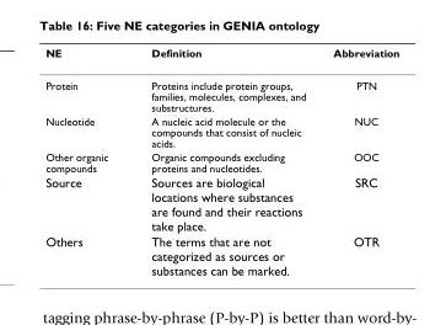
<table><thead><tr><td>NE</td><td>Definition</td><td>Abbreviation</td></tr></thead><tbody><tr><td>Protein</td><td>Proteins include protein groups, families, molecules, complexes, and substructures.</td><td>PTN</td></tr><tr><td>Nucleotide</td><td>A nucleic acid molecule or the compounds that consist of nucleic acids.</td><td>NUC</td></tr><tr><td>Other organic compounds</td><td>Organic compounds excluding proteins and nucleotides.</td><td>OOC</td></tr><tr><td>Source</td><td>Sources are biological locations where substances are found and their reactions take place.</td><td>SRC</td></tr><tr><td>Others</td><td>The terms that are not categorized as sources or substances can be marked.</td><td>OTR</td></tr></tbody></table>